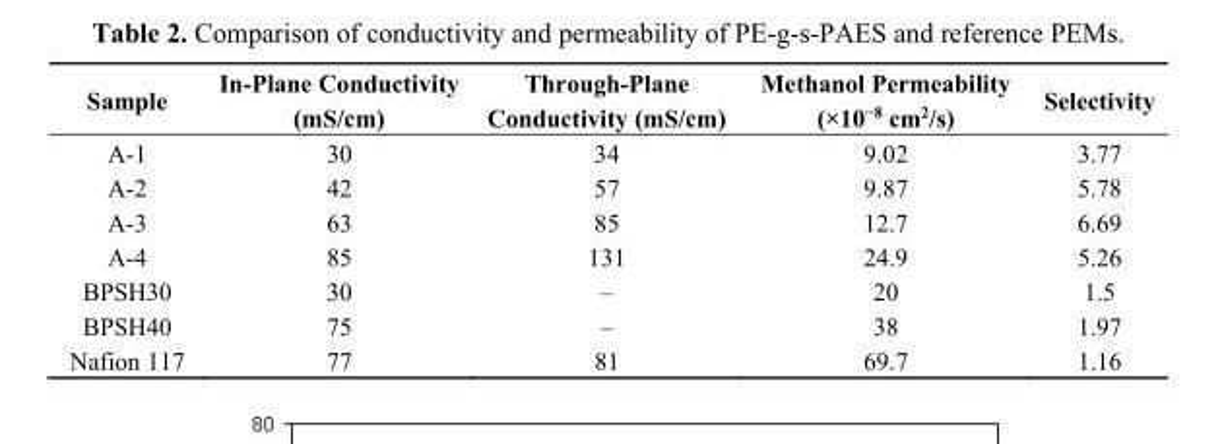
<table><thead><tr><td>Sample</td><td>In-Plane Conductivity (mS/cm)</td><td>Through-Plane Conductivity (mS/cm)</td><td>Methanol Permeability (×10<sup>−8</sup> cm<sup>2</sup>/s)</td><td>Selectivity</td></tr></thead><tbody><tr><td>A-1</td><td>30</td><td>34</td><td>9.02</td><td>3.77</td></tr><tr><td>A-2</td><td>42</td><td>57</td><td>9.87</td><td>5.78</td></tr><tr><td>A-3</td><td>63</td><td>85</td><td>12.7</td><td>6.69</td></tr><tr><td>A-4</td><td>85</td><td>131</td><td>24.9</td><td>5.26</td></tr><tr><td>BPSH30</td><td>30</td><td>–</td><td>20</td><td>1.5</td></tr><tr><td>BPSH40</td><td>75</td><td>–</td><td>38</td><td>1.97</td></tr><tr><td>Nafion 117</td><td>77</td><td>81</td><td>69.7</td><td>1.16</td></tr></tbody></table>